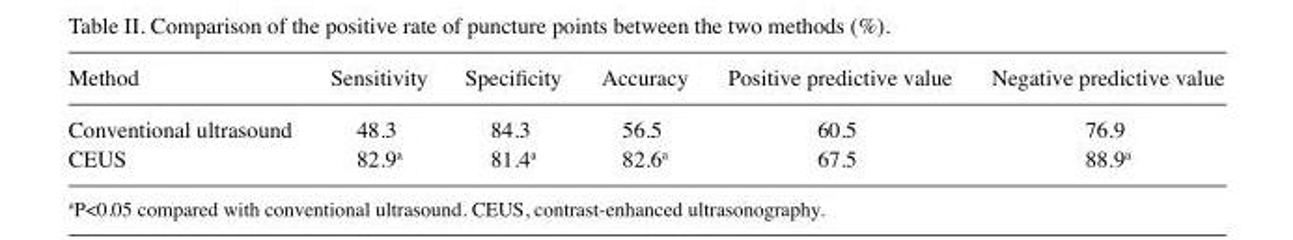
<table><thead><tr><td>Method</td><td>Sensitivity</td><td>Specificity</td><td>Accuracy</td><td>Positive predictive value</td><td>Negative predictive value</td></tr></thead><tbody><tr><td>Conventional ultrasound</td><td>48.3</td><td>84.3</td><td>56.5</td><td>60.5</td><td>76.9</td></tr><tr><td>CEUS</td><td>82.9<sup>a</sup></td><td>81.4<sup>a</sup></td><td>82.6<sup>a</sup></td><td>67.5</td><td>88.9<sup>a</sup></td></tr></tbody></table>